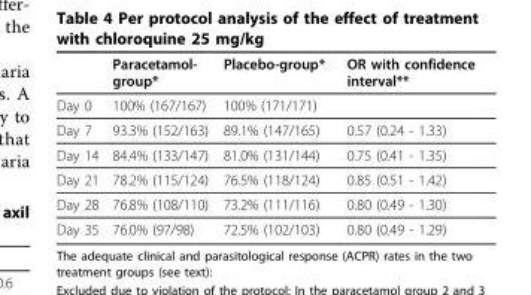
<table><thead><tr><td></td><td>Paracetamol- group*</td><td>Placebo-group*</td><td>OR with confidence interval**</td></tr></thead><tbody><tr><td>Day 0</td><td>100% (167/167)</td><td>100% (171/171)</td><td></td></tr><tr><td>Day 7</td><td>93.3% (152/163)</td><td>89.1% (147/165)</td><td>0.57 (0.24 - 1.33)</td></tr><tr><td>Day 14</td><td>84.4% (133/147)</td><td>81.0% (131/144)</td><td>0.75 (0.41 - 1.35)</td></tr><tr><td>Day 21</td><td>78.2% (115/124)</td><td>76.5% (118/124)</td><td>0.85 (0.51 - 1.42)</td></tr><tr><td>Day 28</td><td>76.8% (108/110)</td><td>73.2% (111/116)</td><td>0.80 (0.49 - 1.30)</td></tr><tr><td>Day 35</td><td>76.0% (97/98)</td><td>72.5% (102/103)</td><td>0.80 (0.49 - 1.29)</td></tr></tbody></table>